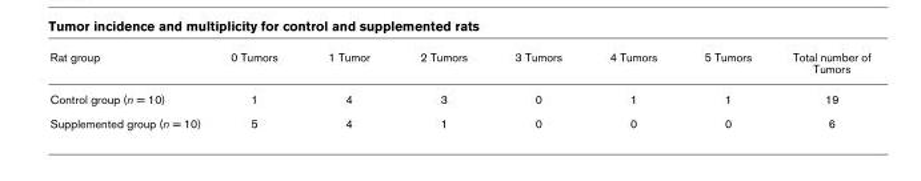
<table><thead><tr><td>Rat group</td><td>0 Tumors</td><td>1 Tumor</td><td>2 Tumors</td><td>3 Tumors</td><td>4 Tumors</td><td>5 Tumors</td><td>Total number of Tumors</td></tr></thead><tbody><tr><td>Control group (n = 10)</td><td>1</td><td>4</td><td>3</td><td>0</td><td>1</td><td>1</td><td>19</td></tr><tr><td>Supplemented group (n = 10)</td><td>5</td><td>4</td><td>1</td><td>0</td><td>0</td><td>0</td><td>6</td></tr></tbody></table>